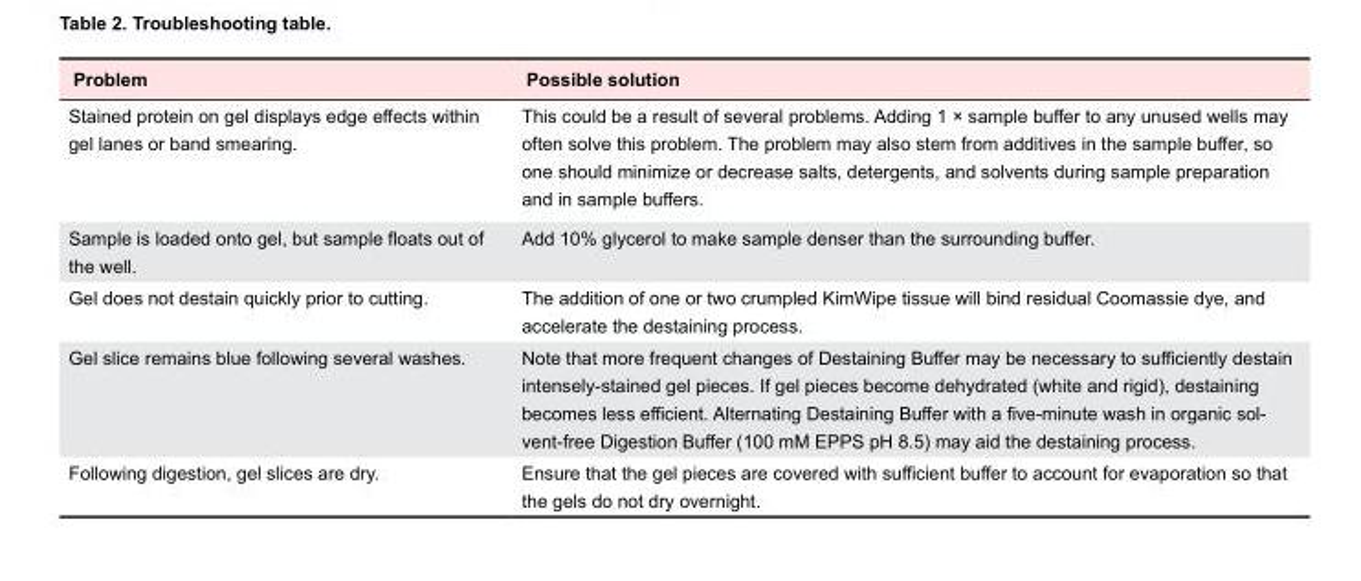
<table><tbody><tr><td>Problem</td><td>Possible solution</td></tr><tr><td>Stained protein on gel displays edge effects within gel lanes or band smearing.</td><td>This could be a result of several problems. Adding 1 × sample buffer to any unused wells may often solve this problem. The problem may also stem from additives in the sample buffer, so one should minimize or decrease salts, detergents, and solvents during sample preparation and in sample buffers.</td></tr><tr><td>Sample is loaded onto gel, but sample floats out of the well.</td><td>Add 10% glycerol to make sample denser than the surrounding buffer.</td></tr><tr><td>Gel does not destain quickly prior to cutting.</td><td>The addition of one or two crumpled KimWipe tissue will bind residual Coomassie dye, and accelerate the destaining process.</td></tr><tr><td>Gel slice remains blue following several washes.</td><td>Note that more frequent changes of Destaining Buffer may be necessary to sufficiently destain intensely-stained gel pieces. If gel pieces become dehydrated (white and rigid), destaining becomes less efficient. Alternating Destaining Buffer with a five-minute wash in organic sol- vent-free Digestion Buffer (100 mM EPPS pH 8.5) may aid the destaining process.</td></tr><tr><td>Following digestion, gel slices are dry.</td><td>Ensure that the gel pieces are covered with sufficient buffer to account for evaporation so that the gels do not dry overnight.</td></tr></tbody></table>